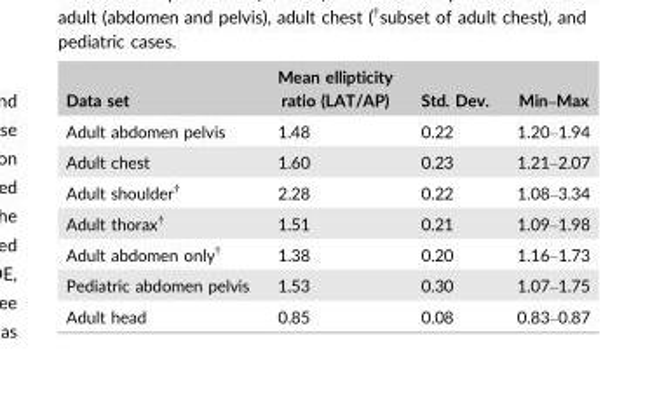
<table><thead><tr><td>Data set</td><td>Mean ellipticity ratio (LAT/AP)</td><td>Std. Dev.</td><td>Min–Max</td></tr></thead><tbody><tr><td>Adult abdomen pelvis</td><td>1.48</td><td>0.22</td><td>1.20–1.94</td></tr><tr><td>Adult chest</td><td>1.60</td><td>0.23</td><td>1.21–2.07</td></tr><tr><td>Adult shoulder<sup>†</sup></td><td>2.28</td><td>0.22</td><td>1.08–3.34</td></tr><tr><td>Adult thorax<sup>†</sup></td><td>1.51</td><td>0.21</td><td>1.09–1.98</td></tr><tr><td>Adult abdomen only<sup>†</sup></td><td>1.38</td><td>0.20</td><td>1.16–1.73</td></tr><tr><td>Pediatric abdomen pelvis</td><td>1.53</td><td>0.30</td><td>1.07–1.75</td></tr><tr><td>Adult head</td><td>0.85</td><td>0.08</td><td>0.83–0.87</td></tr></tbody></table>